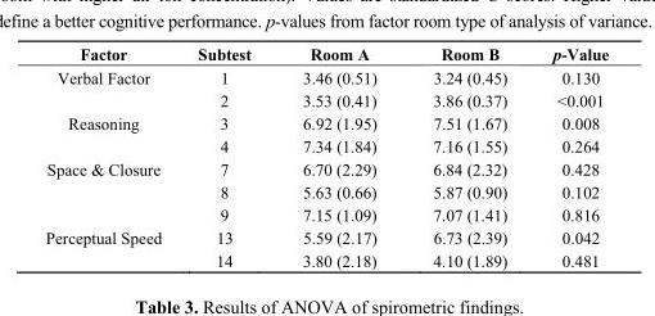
<table><thead><tr><td>Factor</td><td>Subtest</td><td>Room A</td><td>Room B</td><td>p-Value</td></tr></thead><tbody><tr><td rowspan="2">Verbal Factor</td><td>1</td><td>3.46 (0.51)</td><td>3.24 (0.45)</td><td>0.130</td></tr><tr><td>2</td><td>3.53 (0.41)</td><td>3.86 (0.37)</td><td>&lt;0.001</td></tr><tr><td rowspan="2">Reasoning</td><td>3</td><td>6.92 (1.95)</td><td>7.51 (1.67)</td><td>0.008</td></tr><tr><td>4</td><td>7.34 (1.84)</td><td>7.16 (1.55)</td><td>0.264</td></tr><tr><td rowspan="3">Space &amp; Closure</td><td>7</td><td>6.70 (2.29)</td><td>6.84 (2.32)</td><td>0.428</td></tr><tr><td>8</td><td>5.63 (0.66)</td><td>5.87 (0.90)</td><td>0.102</td></tr><tr><td>9</td><td>7.15 (1.09)</td><td>7.07 (1.41)</td><td>0.816</td></tr><tr><td rowspan="2">Perceptual Speed</td><td>13</td><td>5.59 (2.17)</td><td>6.73 (2.39)</td><td>0.042</td></tr><tr><td>14</td><td>3.80 (2.18)</td><td>4.10 (1.89)</td><td>0.481</td></tr></tbody></table>